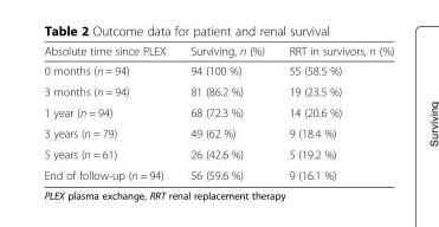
<table><thead><tr><td>Absolute time since PLEX</td><td>Surviving, n (%)</td><td>RRT in survivors, n (%)</td></tr></thead><tbody><tr><td>0 months (n = 94)</td><td>94 (100 %)</td><td>55 (58.5 %)</td></tr><tr><td>3 months (n = 94)</td><td>81 (86.2 %)</td><td>19 (23.5 %)</td></tr><tr><td>1 year (n = 94)</td><td>68 (72.3 %)</td><td>14 (20.6 %)</td></tr><tr><td>3 years (n = 79)</td><td>49 (62 %)</td><td>9 (18.4 %)</td></tr><tr><td>5 years (n = 61)</td><td>26 (42.6 %)</td><td>5 (19.2 %)</td></tr><tr><td>End of follow-up (n = 94)</td><td>56 (59.6 %)</td><td>9 (16.1 %)</td></tr></tbody></table>